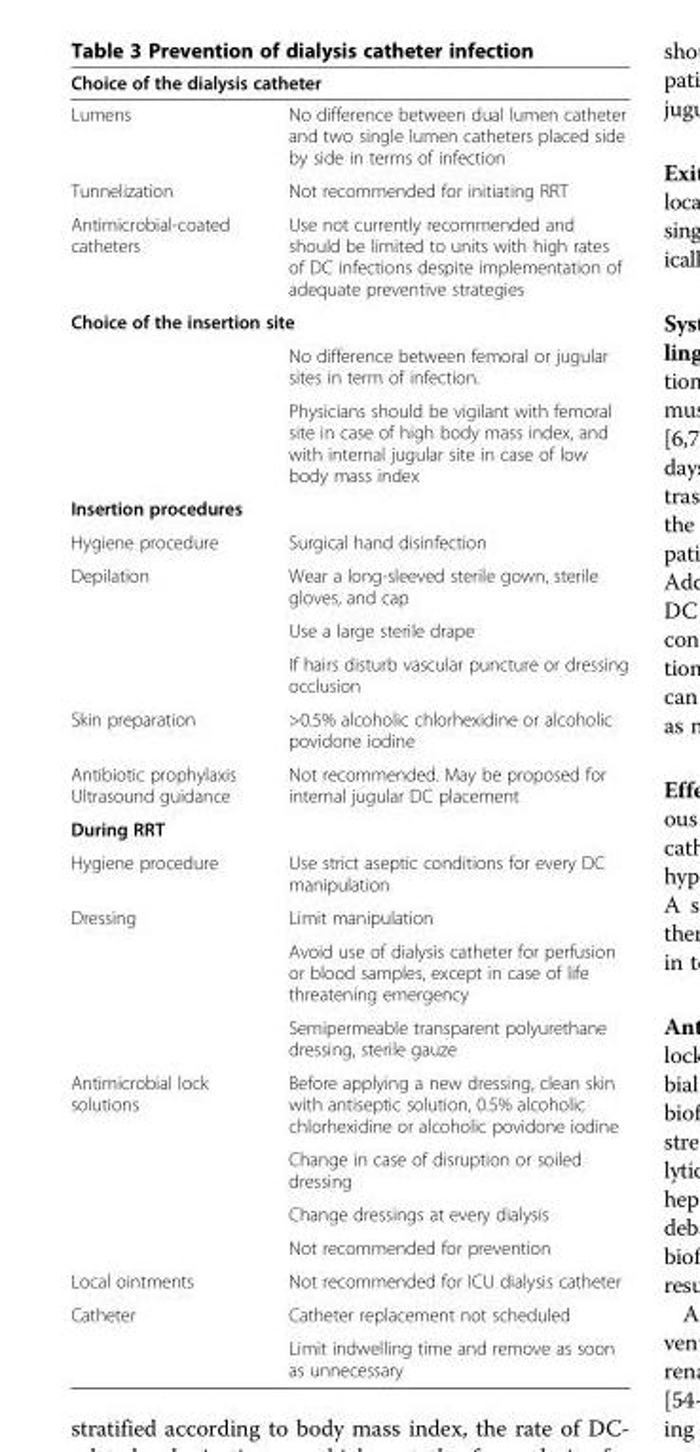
<table><thead><tr><td colspan="2">Choice of the dialysis catheter</td></tr><tr><td>Lumens</td><td>No difference between dual lumen catheter and two single lumen catheters placed side by side in terms of infection</td></tr></thead><tbody><tr><td>Tunnelization</td><td>Not recommended for initiating RRT</td></tr><tr><td>Antimicrobial-coated catheters</td><td>Use not currently recommended and should be limited to units with high rates of DC infections despite implementation of adequate preventive strategies</td></tr><tr><td colspan="2">Choice of the insertion site</td></tr><tr><td></td><td>No difference between femoral or jugular sites in term of infection.</td></tr><tr><td></td><td>Physicians should be vigilant with femoral site in case of high body mass index, and with internal jugular site in case of low body mass index</td></tr><tr><td colspan="2">Insertion procedures</td></tr><tr><td>Hygiene procedure</td><td>Surgical hand disinfection</td></tr><tr><td rowspan="3">Depilation</td><td>Wear a long-sleeved sterile gown, sterile gloves, and cap</td></tr><tr><td>Use a large sterile drape</td></tr><tr><td>If hairs disturb vascular puncture or dressing occlusion</td></tr><tr><td>Skin preparation</td><td>&gt;0.5% alcoholic chlorhexidine or alcoholic povidone iodine</td></tr><tr><td>Antibiotic prophylaxis Ultrasound guidance</td><td>Not recommended. May be proposed for internal jugular DC placement</td></tr><tr><td colspan="2">During RRT</td></tr><tr><td>Hygiene procedure</td><td>Use strict aseptic conditions for every DC manipulation</td></tr><tr><td rowspan="3">Dressing</td><td>Limit manipulation</td></tr><tr><td>Avoid use of dialysis catheter for perfusion or blood samples, except in case of life threatening emergency</td></tr><tr><td>Semipermeable transparent polyurethane dressing, sterile gauze</td></tr><tr><td rowspan="4">Antimicrobial lock solutions</td><td>Before applying a new dressing, clean skin with antiseptic solution, 0.5% alcoholic chlorhexidine or alcoholic povidone iodine</td></tr><tr><td>Change in case of disruption or soiled dressing</td></tr><tr><td>Change dressings at every dialysis</td></tr><tr><td>Not recommended for prevention</td></tr><tr><td>Local ointments</td><td>Not recommended for ICU dialysis catheter</td></tr><tr><td rowspan="2">Catheter</td><td>Catheter replacement not scheduled</td></tr><tr><td>Limit indwelling time and remove as soon as unnecessary</td></tr></tbody></table>